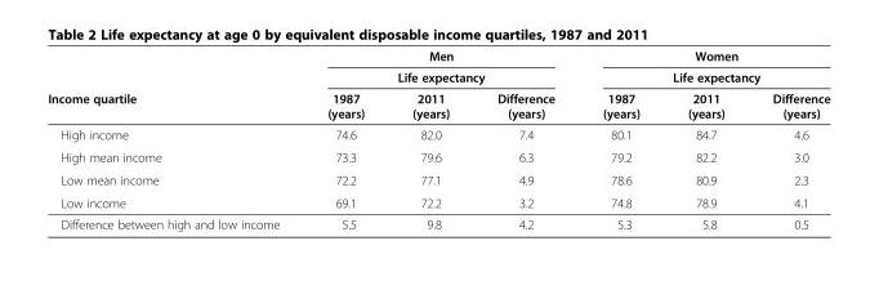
<table><thead><tr><td rowspan="3">Income quartile</td><td rowspan="2" colspan="3">Men Life expectancy</td><td rowspan="2" colspan="3">Women Life expectancy</td></tr><tr></tr><tr><td>1987 (years)</td><td>2011 (years)</td><td>Difference (years)</td><td>1987 (years)</td><td>2011 (years)</td><td>Difference (years)</td></tr></thead><tbody><tr><td>High income</td><td>74.6</td><td>82.0</td><td>7.4</td><td>80.1</td><td>84.7</td><td>4.6</td></tr><tr><td>High mean income</td><td>73.3</td><td>79.6</td><td>6.3</td><td>79.2</td><td>82.2</td><td>3.0</td></tr><tr><td>Low mean income</td><td>72.2</td><td>77.1</td><td>4.9</td><td>78.6</td><td>80.9</td><td>2.3</td></tr><tr><td>Low income</td><td>69.1</td><td>72.2</td><td>3.2</td><td>74.8</td><td>78.9</td><td>4.1</td></tr><tr><td>Difference between high and low income</td><td>5.5</td><td>9.8</td><td>4.2</td><td>5.3</td><td>5.8</td><td>0.5</td></tr></tbody></table>